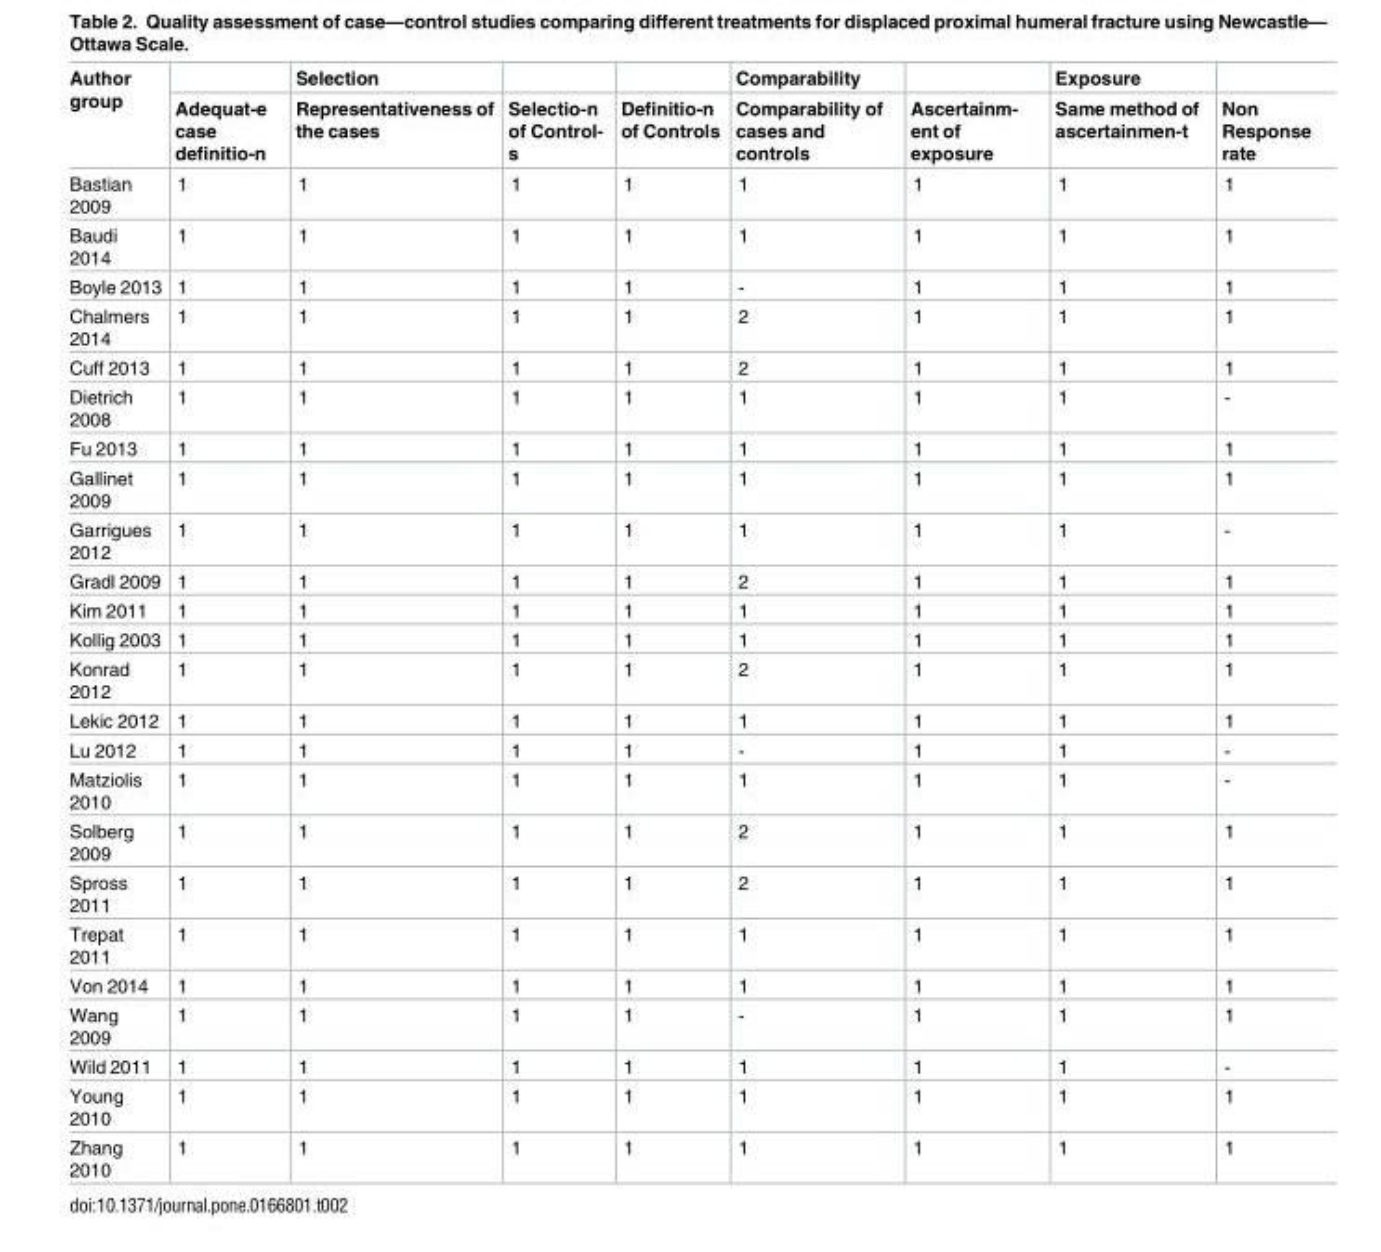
<table><thead><tr><td rowspan="2">Author group</td><td rowspan="2">Adequat-e case definitio-n</td><td rowspan="2">Selection Representativeness of the cases</td><td rowspan="2">Selectio-n of Control- s</td><td rowspan="2">Definitio-n of Controls</td><td rowspan="2">Comparability Comparability of cases and controls</td><td rowspan="2">Ascertainm- ent of exposure</td><td rowspan="2">Exposure Same method of ascertainmen-t</td><td rowspan="2">Non Response rate</td></tr><tr></tr></thead><tbody><tr><td>Bastian 2009</td><td>1</td><td>1</td><td>1</td><td>1</td><td>1</td><td>1</td><td>1</td><td>1</td></tr><tr><td>Baudi 2014</td><td>1</td><td>1</td><td>1</td><td>1</td><td>1</td><td>1</td><td>1</td><td>1</td></tr><tr><td>Boyle 2013</td><td>1</td><td>1</td><td>1</td><td>1</td><td>-</td><td>1</td><td>1</td><td>1</td></tr><tr><td>Chalmers 2014</td><td>1</td><td>1</td><td>1</td><td>1</td><td>2</td><td>1</td><td>1</td><td>1</td></tr><tr><td>Cuff 2013</td><td>1</td><td>1</td><td>1</td><td>1</td><td>2</td><td>1</td><td>1</td><td>1</td></tr><tr><td>Dietrich 2008</td><td>1</td><td>1</td><td>1</td><td>1</td><td>1</td><td>1</td><td>1</td><td>-</td></tr><tr><td>Fu 2013</td><td>1</td><td>1</td><td>1</td><td>1</td><td>1</td><td>1</td><td>1</td><td>1</td></tr><tr><td>Gallinet 2009</td><td>1</td><td>1</td><td>1</td><td>1</td><td>1</td><td>1</td><td>1</td><td>1</td></tr><tr><td>Garrigues 2012</td><td>1</td><td>1</td><td>1</td><td>1</td><td>1</td><td>1</td><td>1</td><td>-</td></tr><tr><td>Gradl 2009</td><td>1</td><td>1</td><td>1</td><td>1</td><td>2</td><td>1</td><td>1</td><td>1</td></tr><tr><td>Kim 2011</td><td>1</td><td>1</td><td>1</td><td>1</td><td>1</td><td>1</td><td>1</td><td>1</td></tr><tr><td>Kollig 2003</td><td>1</td><td>1</td><td>1</td><td>1</td><td>1</td><td>1</td><td>1</td><td>1</td></tr><tr><td>Konrad 2012</td><td>1</td><td>1</td><td>1</td><td>1</td><td>2</td><td>1</td><td>1</td><td>1</td></tr><tr><td>Lekic 2012</td><td>1</td><td>1</td><td>1</td><td>1</td><td>1</td><td>1</td><td>1</td><td>1</td></tr><tr><td>Lu 2012</td><td>1</td><td>1</td><td>1</td><td>1</td><td>-</td><td>1</td><td>1</td><td>-</td></tr><tr><td>Matziolis 2010</td><td>1</td><td>1</td><td>1</td><td>1</td><td>1</td><td>1</td><td>1</td><td>-</td></tr><tr><td>Solberg 2009</td><td>1</td><td>1</td><td>1</td><td>1</td><td>2</td><td>1</td><td>1</td><td>1</td></tr><tr><td>Spross 2011</td><td>1</td><td>1</td><td>1</td><td>1</td><td>2</td><td>1</td><td>1</td><td>1</td></tr><tr><td>Trepat 2011</td><td>1</td><td>1</td><td>1</td><td>1</td><td>1</td><td>1</td><td>1</td><td>1</td></tr><tr><td>Von 2014</td><td>1</td><td>1</td><td>1</td><td>1</td><td>1</td><td>1</td><td>1</td><td>1</td></tr><tr><td>Wang 2009</td><td>1</td><td>1</td><td>1</td><td>1</td><td>-</td><td>1</td><td>1</td><td>1</td></tr><tr><td>Wild 2011</td><td>1</td><td>1</td><td>1</td><td>1</td><td>1</td><td>1</td><td>1</td><td>-</td></tr><tr><td>Young 2010</td><td>1</td><td>1</td><td>1</td><td>1</td><td>1</td><td>1</td><td>1</td><td>1</td></tr><tr><td>Zhang 2010</td><td>1</td><td>1</td><td>1</td><td>1</td><td>1</td><td>1</td><td>1</td><td>1</td></tr></tbody></table>